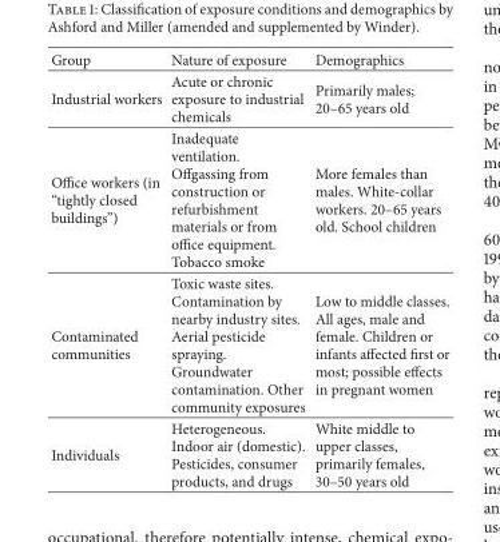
<table><thead><tr><td>Group</td><td>Nature of exposure</td><td>Demographics</td></tr></thead><tbody><tr><td>Industrial workers</td><td>Acute or chronic exposure to industrial chemicals</td><td>Primarily males; 20–65 years old</td></tr><tr><td>Office workers (in “tightly closed buildings”)</td><td>Inadequate ventilation. Offgassing from construction or refurbishment materials or from office equipment. Tobacco smoke</td><td>More females than males. White-collar workers. 20–65 years old. School children</td></tr><tr><td>Contaminated communities</td><td>Toxic waste sites. Contamination by nearby industry sites. Aerial pesticide spraying. Groundwater contamination. Other community exposures</td><td>Low to middle classes. All ages, male and female. Children or infants affected first or most; possible effects in pregnant women</td></tr><tr><td>Individuals</td><td>Heterogeneous. Indoor air (domestic). Pesticides, consumer products, and drugs</td><td>White middle to upper classes, primarily females, 30–50 years old</td></tr></tbody></table>